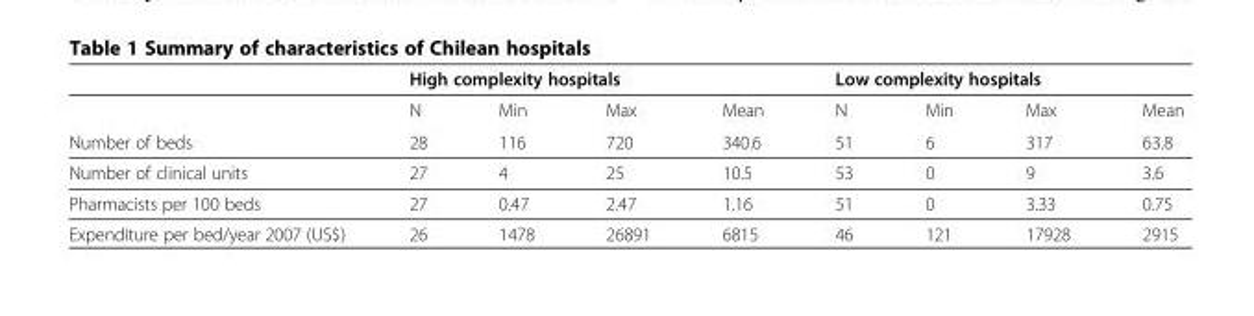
<table><thead><tr><td rowspan="2"></td><td colspan="4">High complexity hospitals</td><td colspan="4">Low complexity hospitals</td></tr><tr><td>N</td><td>Min</td><td>Max</td><td>Mean</td><td>N</td><td>Min</td><td>Max</td><td>Mean</td></tr></thead><tbody><tr><td>Number of beds</td><td>28</td><td>116</td><td>720</td><td>340.6</td><td>51</td><td>6</td><td>317</td><td>63.8</td></tr><tr><td>Number of clinical units</td><td>27</td><td>4</td><td>25</td><td>10.5</td><td>53</td><td>0</td><td>9</td><td>3.6</td></tr><tr><td>Pharmacists per 100 beds</td><td>27</td><td>0.47</td><td>2.47</td><td>1.16</td><td>51</td><td>0</td><td>3.33</td><td>0.75</td></tr><tr><td>Expenditure per bed/year 2007 (US$)</td><td>26</td><td>1478</td><td>26891</td><td>6815</td><td>46</td><td>121</td><td>17928</td><td>2915</td></tr></tbody></table>